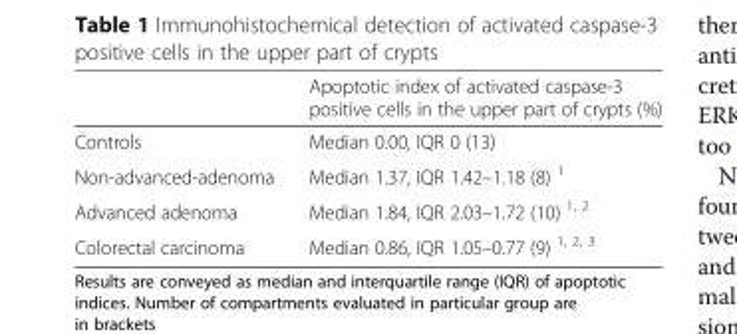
<table><thead><tr><td></td><td>Apoptotic index of activated caspase-3 positive cells in the upper part of crypts (%)</td></tr></thead><tbody><tr><td>Controls</td><td>Median 0.00, IQR 0 (13)</td></tr><tr><td>Non-advanced-adenoma</td><td>Median 1.37, IQR 1.42–1.18 (8) <sup>1</sup></td></tr><tr><td>Advanced adenoma</td><td>Median 1.84, IQR 2.03–1.72 (10) <sup>1, 2</sup></td></tr><tr><td>Colorectal carcinoma</td><td>Median 0.86, IQR 1.05–0.77 (9) <sup>1, 2, 3</sup></td></tr></tbody></table>